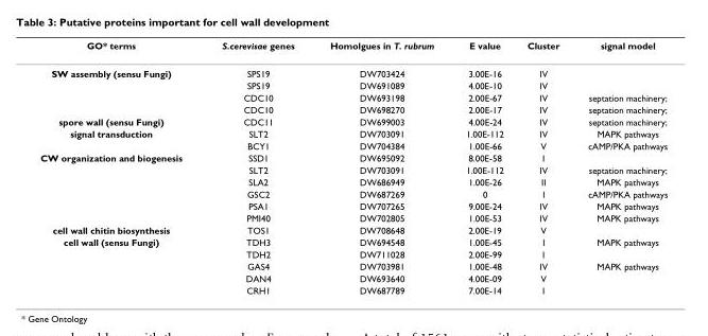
<table><thead><tr><td>GO* terms</td><td>S.cerevisae genes</td><td>Homolgues in T. rubrum</td><td>E value</td><td>Cluster</td><td>signal model</td></tr></thead><tbody><tr><td rowspan="4">SW assembly (sensu Fungi)</td><td>SPS19</td><td>DW703424</td><td>3.00E-16</td><td>IV</td><td></td></tr><tr><td>SPS19</td><td>DW691089</td><td>4.00E-10</td><td>IV</td><td></td></tr><tr><td>CDC10</td><td>DW693198</td><td>2.00E-67</td><td>IV</td><td>septation machinery;</td></tr><tr><td>CDC10</td><td>DW698270</td><td>2.00E-17</td><td>IV</td><td>septation machinery;</td></tr><tr><td>spore wall (sensu Fungi)</td><td>CDC11</td><td>DW699003</td><td>4.00E-24</td><td>IV</td><td>septation machinery;</td></tr><tr><td rowspan="2">signal transduction</td><td>SLT2</td><td>DW703091</td><td>1.00E-112</td><td>IV</td><td>MAPK pathways</td></tr><tr><td>BCY1</td><td>DW704384</td><td>1.00E-66</td><td>V</td><td>cAMP/PKA pathways</td></tr><tr><td rowspan="6">CW organization and biogenesis</td><td>SSD1</td><td>DW695092</td><td>8.00E-58</td><td>I</td><td></td></tr><tr><td>SLT2</td><td>DW703091</td><td>1.00E-112</td><td>IV</td><td>septation machinery;</td></tr><tr><td>SLA2</td><td>DW686949</td><td>1.00E-26</td><td>II</td><td>MAPK pathways</td></tr><tr><td>GSC2</td><td>DW687269</td><td>0</td><td>I</td><td>cAMP/PKA pathways</td></tr><tr><td>PSA1</td><td>DW707265</td><td>9.00E-24</td><td>IV</td><td>MAPK pathways</td></tr><tr><td>PMI40</td><td>DW702805</td><td>1.00E-53</td><td>IV</td><td>MAPK pathways</td></tr><tr><td>cell wall chitin biosynthesis</td><td>TOS1</td><td>DW708648</td><td>2.00E-19</td><td>V</td><td></td></tr><tr><td rowspan="5">cell wall (sensu Fungi)</td><td>TDH3</td><td>DW694548</td><td>1.00E-45</td><td>I</td><td>MAPK pathways</td></tr><tr><td>TDH2</td><td>DW711028</td><td>2.00E-99</td><td>I</td><td></td></tr><tr><td>GAS4</td><td>DW703981</td><td>1.00E-48</td><td>IV</td><td>MAPK pathways</td></tr><tr><td>DAN4</td><td>DW693640</td><td>4.00E-09</td><td>V</td><td></td></tr><tr><td>CRH1</td><td>DW687789</td><td>7.00E-14</td><td>I</td><td></td></tr></tbody></table>